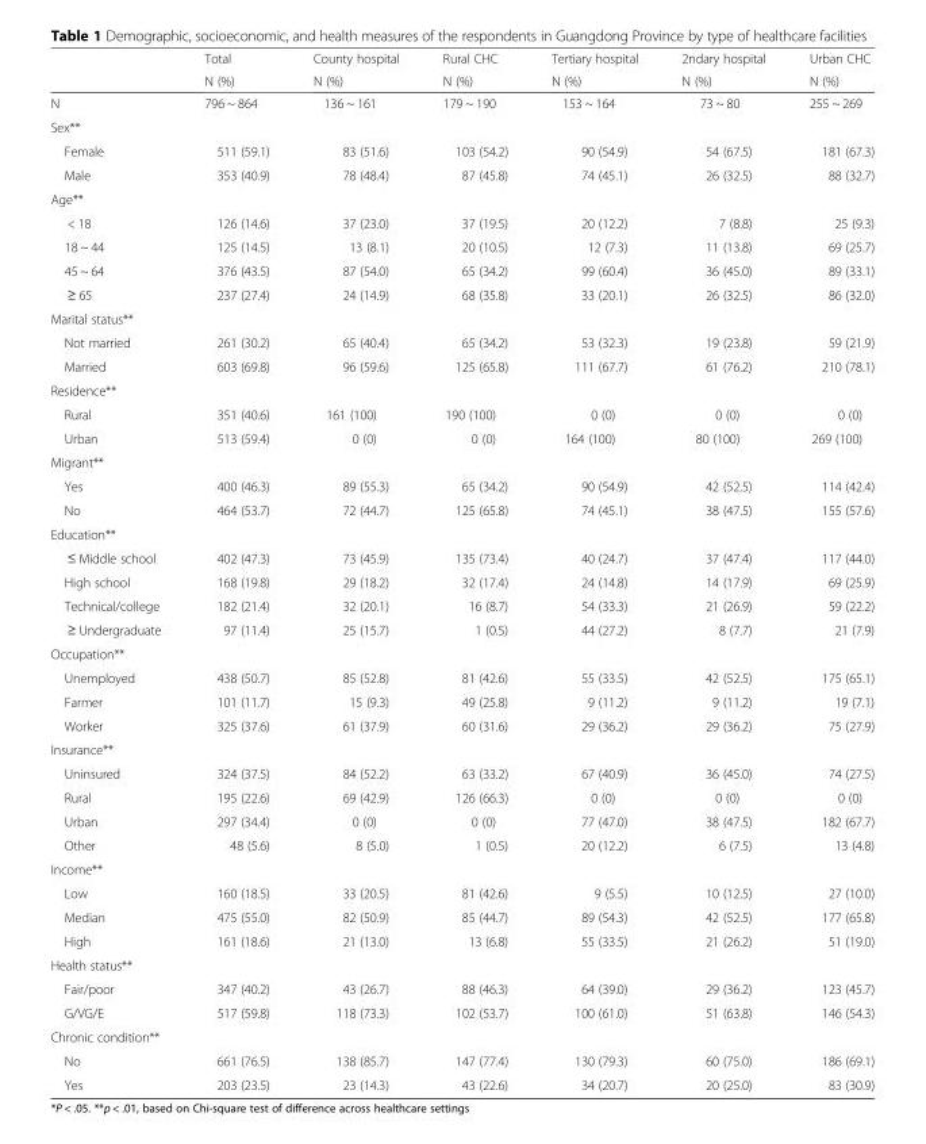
<table><thead><tr><td rowspan="2"></td><td rowspan="2">Total N (%)</td><td rowspan="2">County hospital N (%)</td><td rowspan="2">Rural CHC N (%)</td><td rowspan="2">Tertiary hospital N (%)</td><td rowspan="2">2ndary hospital N (%)</td><td rowspan="2">Urban CHC N (%)</td></tr><tr></tr></thead><tbody><tr><td>N</td><td>796 ~ 864</td><td>136 ~ 161</td><td>179 ~ 190</td><td>153 ~ 164</td><td>73 ~ 80</td><td>255 ~ 269</td></tr><tr><td colspan="7">Sex**</td></tr><tr><td>Female</td><td>511 (59.1)</td><td>83 (51.6)</td><td>103 (54.2)</td><td>90 (54.9)</td><td>54 (67.5)</td><td>181 (67.3)</td></tr><tr><td>Male</td><td>353 (40.9)</td><td>78 (48.4)</td><td>87 (45.8)</td><td>74 (45.1)</td><td>26 (32.5)</td><td>88 (32.7)</td></tr><tr><td colspan="7">Age**</td></tr><tr><td>&lt; 18</td><td>126 (14.6)</td><td>37 (23.0)</td><td>37 (19.5)</td><td>20 (12.2)</td><td>7 (8.8)</td><td>25 (9.3)</td></tr><tr><td>18 ~ 44</td><td>125 (14.5)</td><td>13 (8.1)</td><td>20 (10.5)</td><td>12 (7.3)</td><td>11 (13.8)</td><td>69 (25.7)</td></tr><tr><td>45 ~ 64</td><td>376 (43.5)</td><td>87 (54.0)</td><td>65 (34.2)</td><td>99 (60.4)</td><td>36 (45.0)</td><td>89 (33.1)</td></tr><tr><td>≥ 65</td><td>237 (27.4)</td><td>24 (14.9)</td><td>68 (35.8)</td><td>33 (20.1)</td><td>26 (32.5)</td><td>86 (32.0)</td></tr><tr><td colspan="7">Marital status**</td></tr><tr><td>Not married</td><td>261 (30.2)</td><td>65 (40.4)</td><td>65 (34.2)</td><td>53 (32.3)</td><td>19 (23.8)</td><td>59 (21.9)</td></tr><tr><td>Married</td><td>603 (69.8)</td><td>96 (59.6)</td><td>125 (65.8)</td><td>111 (67.7)</td><td>61 (76.2)</td><td>210 (78.1)</td></tr><tr><td colspan="7">Residence**</td></tr><tr><td>Rural</td><td>351 (40.6)</td><td>161 (100)</td><td>190 (100)</td><td>0 (0)</td><td>0 (0)</td><td>0 (0)</td></tr><tr><td>Urban</td><td>513 (59.4)</td><td>0 (0)</td><td>0 (0)</td><td>164 (100)</td><td>80 (100)</td><td>269 (100)</td></tr><tr><td colspan="7">Migrant**</td></tr><tr><td>Yes</td><td>400 (46.3)</td><td>89 (55.3)</td><td>65 (34.2)</td><td>90 (54.9)</td><td>42 (52.5)</td><td>114 (42.4)</td></tr><tr><td>No</td><td>464 (53.7)</td><td>72 (44.7)</td><td>125 (65.8)</td><td>74 (45.1)</td><td>38 (47.5)</td><td>155 (57.6)</td></tr><tr><td colspan="7">Education**</td></tr><tr><td>≤ Middle school</td><td>402 (47.3)</td><td>73 (45.9)</td><td>135 (73.4)</td><td>40 (24.7)</td><td>37 (47.4)</td><td>117 (44.0)</td></tr><tr><td>High school</td><td>168 (19.8)</td><td>29 (18.2)</td><td>32 (17.4)</td><td>24 (14.8)</td><td>14 (17.9)</td><td>69 (25.9)</td></tr><tr><td>Technical/college</td><td>182 (21.4)</td><td>32 (20.1)</td><td>16 (8.7)</td><td>54 (33.3)</td><td>21 (26.9)</td><td>59 (22.2)</td></tr><tr><td>≥ Undergraduate</td><td>97 (11.4)</td><td>25 (15.7)</td><td>1 (0.5)</td><td>44 (27.2)</td><td>8 (7.7)</td><td>21 (7.9)</td></tr><tr><td colspan="7">Occupation**</td></tr><tr><td>Unemployed</td><td>438 (50.7)</td><td>85 (52.8)</td><td>81 (42.6)</td><td>55 (33.5)</td><td>42 (52.5)</td><td>175 (65.1)</td></tr><tr><td>Farmer</td><td>101 (11.7)</td><td>15 (9.3)</td><td>49 (25.8)</td><td>9 (11.2)</td><td>9 (11.2)</td><td>19 (7.1)</td></tr><tr><td>Worker</td><td>325 (37.6)</td><td>61 (37.9)</td><td>60 (31.6)</td><td>29 (36.2)</td><td>29 (36.2)</td><td>75 (27.9)</td></tr><tr><td colspan="7">Insurance**</td></tr><tr><td>Uninsured</td><td>324 (37.5)</td><td>84 (52.2)</td><td>63 (33.2)</td><td>67 (40.9)</td><td>36 (45.0)</td><td>74 (27.5)</td></tr><tr><td>Rural</td><td>195 (22.6)</td><td>69 (42.9)</td><td>126 (66.3)</td><td>0 (0)</td><td>0 (0)</td><td>0 (0)</td></tr><tr><td>Urban</td><td>297 (34.4)</td><td>0 (0)</td><td>0 (0)</td><td>77 (47.0)</td><td>38 (47.5)</td><td>182 (67.7)</td></tr><tr><td>Other</td><td>48 (5.6)</td><td>8 (5.0)</td><td>1 (0.5)</td><td>20 (12.2)</td><td>6 (7.5)</td><td>13 (4.8)</td></tr><tr><td colspan="7">Income**</td></tr><tr><td>Low</td><td>160 (18.5)</td><td>33 (20.5)</td><td>81 (42.6)</td><td>9 (5.5)</td><td>10 (12.5)</td><td>27 (10.0)</td></tr><tr><td>Median</td><td>475 (55.0)</td><td>82 (50.9)</td><td>85 (44.7)</td><td>89 (54.3)</td><td>42 (52.5)</td><td>177 (65.8)</td></tr><tr><td>High</td><td>161 (18.6)</td><td>21 (13.0)</td><td>13 (6.8)</td><td>55 (33.5)</td><td>21 (26.2)</td><td>51 (19.0)</td></tr><tr><td colspan="7">Health status**</td></tr><tr><td>Fair/poor</td><td>347 (40.2)</td><td>43 (26.7)</td><td>88 (46.3)</td><td>64 (39.0)</td><td>29 (36.2)</td><td>123 (45.7)</td></tr><tr><td>G/VG/E</td><td>517 (59.8)</td><td>118 (73.3)</td><td>102 (53.7)</td><td>100 (61.0)</td><td>51 (63.8)</td><td>146 (54.3)</td></tr><tr><td colspan="7">Chronic condition**</td></tr><tr><td>No</td><td>661 (76.5)</td><td>138 (85.7)</td><td>147 (77.4)</td><td>130 (79.3)</td><td>60 (75.0)</td><td>186 (69.1)</td></tr><tr><td>Yes</td><td>203 (23.5)</td><td>23 (14.3)</td><td>43 (22.6)</td><td>34 (20.7)</td><td>20 (25.0)</td><td>83 (30.9)</td></tr></tbody></table>